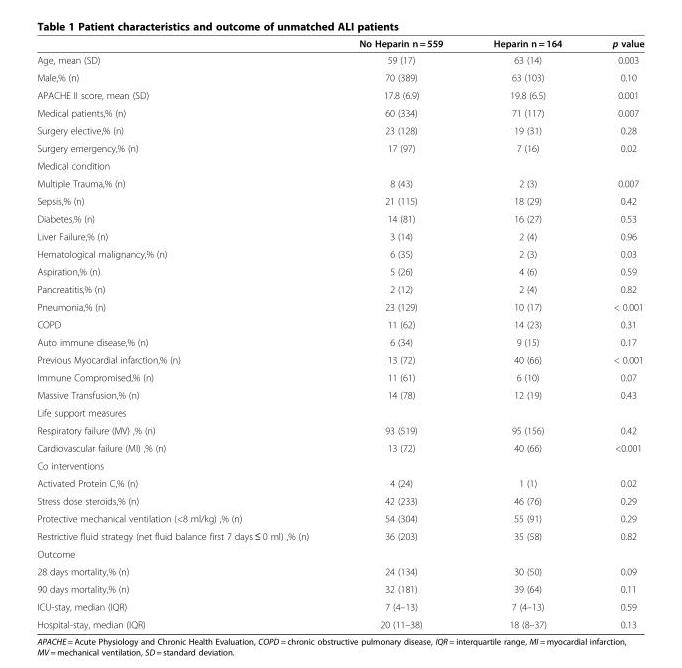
<table><thead><tr><td></td><td>No Heparin n = 559</td><td>Heparin n = 164</td><td>p value</td></tr></thead><tbody><tr><td>Age, mean (SD)</td><td>59 (17)</td><td>63 (14)</td><td>0.003</td></tr><tr><td>Male,% (n)</td><td>70 (389)</td><td>63 (103)</td><td>0.10</td></tr><tr><td>APACHE II score, mean (SD)</td><td>17.8 (6.9)</td><td>19.8 (6.5)</td><td>0.001</td></tr><tr><td>Medical patients,% (n)</td><td>60 (334)</td><td>71 (117)</td><td>0.007</td></tr><tr><td>Surgery elective,% (n)</td><td>23 (128)</td><td>19 (31)</td><td>0.28</td></tr><tr><td>Surgery emergency,% (n)</td><td>17 (97)</td><td>7 (16)</td><td>0.02</td></tr><tr><td colspan="4">Medical condition</td></tr><tr><td>Multiple Trauma,% (n)</td><td>8 (43)</td><td>2 (3)</td><td>0.007</td></tr><tr><td>Sepsis,% (n)</td><td>21 (115)</td><td>18 (29)</td><td>0.42</td></tr><tr><td>Diabetes,% (n)</td><td>14 (81)</td><td>16 (27)</td><td>0.53</td></tr><tr><td>Liver Failure,% (n)</td><td>3 (14)</td><td>2 (4)</td><td>0.96</td></tr><tr><td>Hematological malignancy,% (n)</td><td>6 (35)</td><td>2 (3)</td><td>0.03</td></tr><tr><td>Aspiration,% (n)</td><td>5 (26)</td><td>4 (6)</td><td>0.59</td></tr><tr><td>Pancreatitis,% (n)</td><td>2 (12)</td><td>2 (4)</td><td>0.82</td></tr><tr><td>Pneumonia,% (n)</td><td>23 (129)</td><td>10 (17)</td><td>&lt; 0.001</td></tr><tr><td>COPD</td><td>11 (62)</td><td>14 (23)</td><td>0.31</td></tr><tr><td>Auto immune disease,% (n)</td><td>6 (34)</td><td>9 (15)</td><td>0.17</td></tr><tr><td>Previous Myocardial infarction,% (n)</td><td>13 (72)</td><td>40 (66)</td><td>&lt; 0.001</td></tr><tr><td>Immune Compromised,% (n)</td><td>11 (61)</td><td>6 (10)</td><td>0.07</td></tr><tr><td>Massive Transfusion,% (n)</td><td>14 (78)</td><td>12 (19)</td><td>0.43</td></tr><tr><td colspan="4">Life support measures</td></tr><tr><td>Respiratory failure (MV) ,% (n)</td><td>93 (519)</td><td>95 (156)</td><td>0.42</td></tr><tr><td>Cardiovascular failure (MI) ,% (n)</td><td>13 (72)</td><td>40 (66)</td><td>&lt;0.001</td></tr><tr><td colspan="4">Co interventions</td></tr><tr><td>Activated Protein C,% (n)</td><td>4 (24)</td><td>1 (1)</td><td>0.02</td></tr><tr><td>Stress dose steroids,% (n)</td><td>42 (233)</td><td>46 (76)</td><td>0.29</td></tr><tr><td>Protective mechanical ventilation (&lt;8 ml/kg) ,% (n)</td><td>54 (304)</td><td>55 (91)</td><td>0.29</td></tr><tr><td>Restrictive fluid strategy (net fluid balance first 7 days ≤ 0 ml) ,% (n)</td><td>36 (203)</td><td>35 (58)</td><td>0.82</td></tr><tr><td colspan="4">Outcome</td></tr><tr><td>28 days mortality,% (n)</td><td>24 (134)</td><td>30 (50)</td><td>0.09</td></tr><tr><td>90 days mortality,% (n)</td><td>32 (181)</td><td>39 (64)</td><td>0.11</td></tr><tr><td>ICU-stay, median (IQR)</td><td>7 (4–13)</td><td>7 (4–13)</td><td>0.59</td></tr><tr><td>Hospital-stay, median (IQR)</td><td>20 (11–38)</td><td>18 (8–37)</td><td>0.13</td></tr></tbody></table>